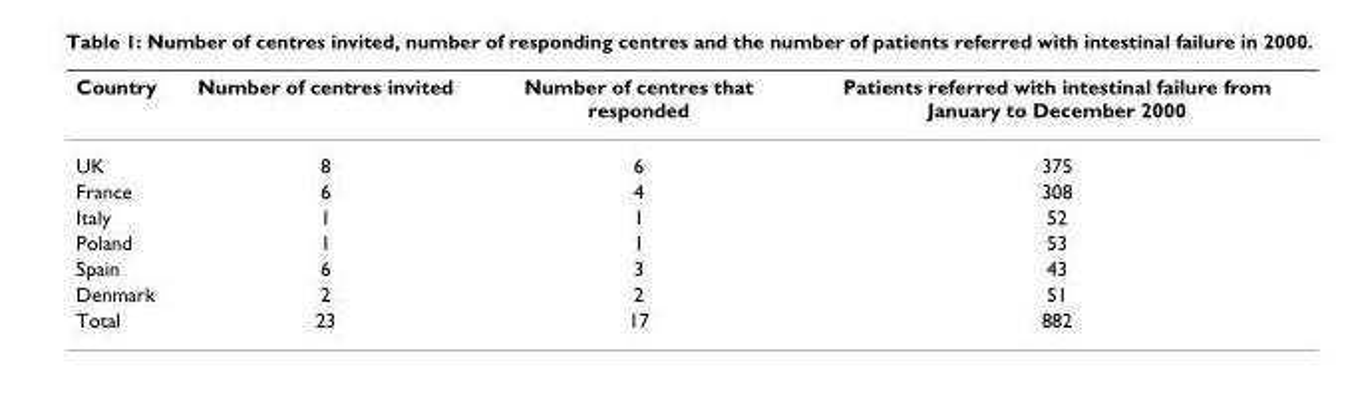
<table><thead><tr><td>Country</td><td>Number of centres invited</td><td>Number of centres that responded</td><td>Patients referred with intestinal failure from January to December 2000</td></tr></thead><tbody><tr><td>UK</td><td>8</td><td>6</td><td>375</td></tr><tr><td>France</td><td>6</td><td>4</td><td>308</td></tr><tr><td>Italy</td><td>1</td><td>1</td><td>52</td></tr><tr><td>Poland</td><td>1</td><td>1</td><td>53</td></tr><tr><td>Spain</td><td>6</td><td>3</td><td>43</td></tr><tr><td>Denmark</td><td>2</td><td>2</td><td>51</td></tr><tr><td>Total</td><td>23</td><td>17</td><td>882</td></tr></tbody></table>